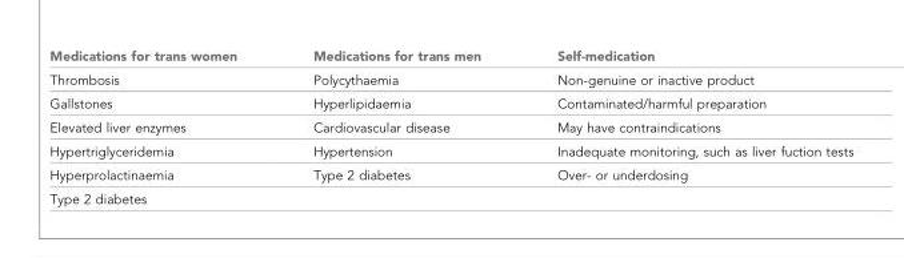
<table><thead><tr><td>Medications for trans women</td><td>Medications for trans men</td><td>Self-medication</td></tr></thead><tbody><tr><td>Thrombosis</td><td>Polycythaemia</td><td>Non-genuine or inactive product</td></tr><tr><td>Gallstones</td><td>Hyperlipidaemia</td><td>Contaminated/harmful preparation</td></tr><tr><td>Elevated liver enzymes</td><td>Cardiovascular disease</td><td>May have contraindications</td></tr><tr><td>Hypertriglyceridemia</td><td>Hypertension</td><td>Inadequate monitoring, such as liver fuction tests</td></tr><tr><td>Hyperprolactinaemia</td><td>Type 2 diabetes</td><td>Over- or underdosing</td></tr><tr><td>Type 2 diabetes</td><td></td><td></td></tr></tbody></table>